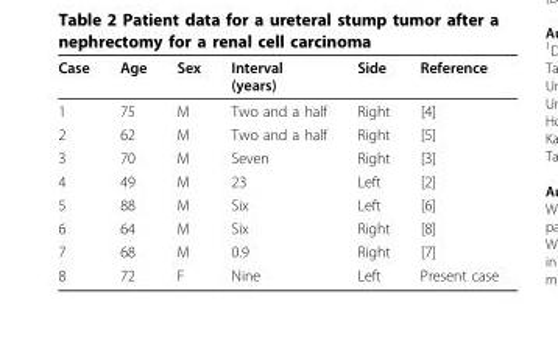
<table><thead><tr><td>Case</td><td>Age</td><td>Sex</td><td>Interval (years)</td><td>Side</td><td>Reference</td></tr></thead><tbody><tr><td>1</td><td>75</td><td>M</td><td>Two and a half</td><td>Right</td><td>[4]</td></tr><tr><td>2</td><td>62</td><td>M</td><td>Two and a half</td><td>Right</td><td>[5]</td></tr><tr><td>3</td><td>70</td><td>M</td><td>Seven</td><td>Right</td><td>[3]</td></tr><tr><td>4</td><td>49</td><td>M</td><td>23</td><td>Left</td><td>[2]</td></tr><tr><td>5</td><td>88</td><td>M</td><td>Six</td><td>Left</td><td>[6]</td></tr><tr><td>6</td><td>64</td><td>M</td><td>Six</td><td>Right</td><td>[8]</td></tr><tr><td>7</td><td>68</td><td>M</td><td>0.9</td><td>Right</td><td>[7]</td></tr><tr><td>8</td><td>72</td><td>F</td><td>Nine</td><td>Left</td><td>Present case</td></tr></tbody></table>